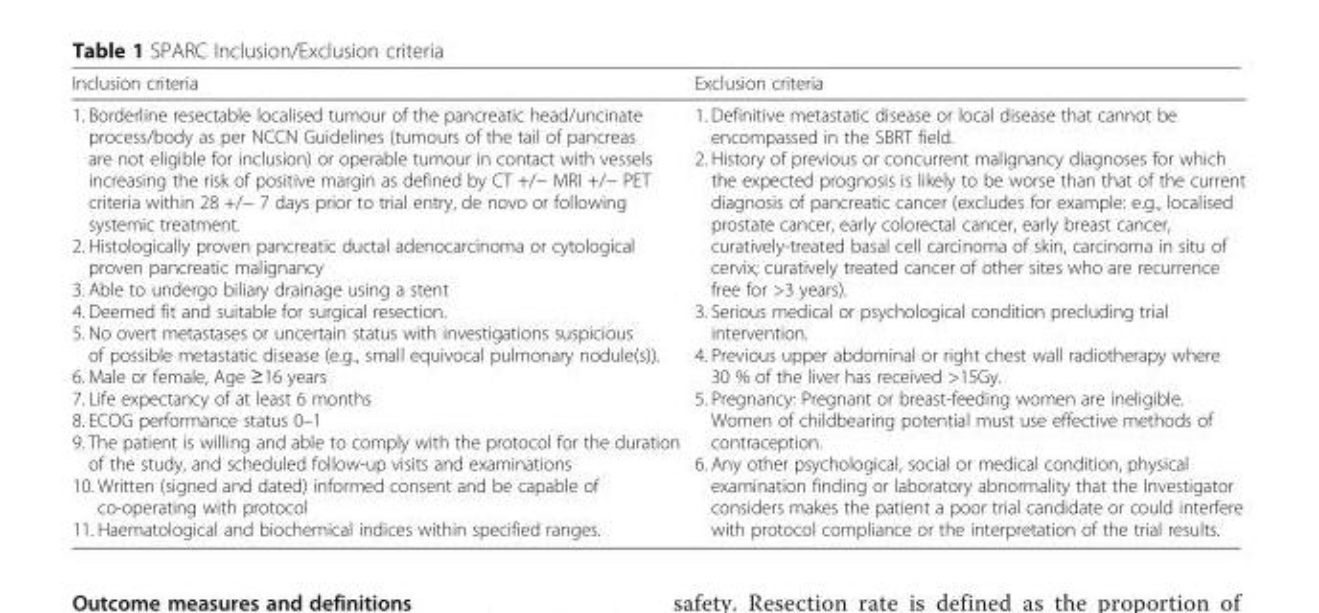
<table><thead><tr><td>Inclusion criteria</td><td>Exclusion criteria</td></tr></thead><tbody><tr><td>1. Borderline resectable localised tumour of the pancreatic head/uncinate process/body as per NCCN Guidelines (tumours of the tail of pancreas are not eligible for inclusion) or operable tumour in contact with vessels increasing the risk of positive margin as defined by CT +/− MRI +/− PET criteria within 28 +/− 7 days prior to trial entry, de novo or following systemic treatment. 2. Histologically proven pancreatic ductal adenocarcinoma or cytological proven pancreatic malignancy 3. Able to undergo biliary drainage using a stent 4. Deemed fit and suitable for surgical resection. 5. No overt metastases or uncertain status with investigations suspicious of possible metastatic disease (e.g., small equivocal pulmonary nodule(s)). 6. Male or female, Age ≥16 years 7. Life expectancy of at least 6 months 8. ECOG performance status 0–1 9. The patient is willing and able to comply with the protocol for the duration of the study, and scheduled follow-up visits and examinations 10. Written (signed and dated) informed consent and be capable of co-operating with protocol 11. Haematological and biochemical indices within specified ranges.</td><td>1. Definitive metastatic disease or local disease that cannot be encompassed in the SBRT field. 2. History of previous or concurrent malignancy diagnoses for which the expected prognosis is likely to be worse than that of the current diagnosis of pancreatic cancer (excludes for example: e.g., localised prostate cancer, early colorectal cancer, early breast cancer, curatively-treated basal cell carcinoma of skin, carcinoma in situ of cervix; curatively treated cancer of other sites who are recurrence free for &gt;3 years). 3. Serious medical or psychological condition precluding trial intervention. 4. Previous upper abdominal or right chest wall radiotherapy where 30 % of the liver has received &gt;15Gy. 5. Pregnancy: Pregnant or breast-feeding women are ineligible. Women of childbearing potential must use effective methods of contraception. 6. Any other psychological, social or medical condition, physical examination finding or laboratory abnormality that the Investigator considers makes the patient a poor trial candidate or could interfere with protocol compliance or the interpretation of the trial results.</td></tr></tbody></table>